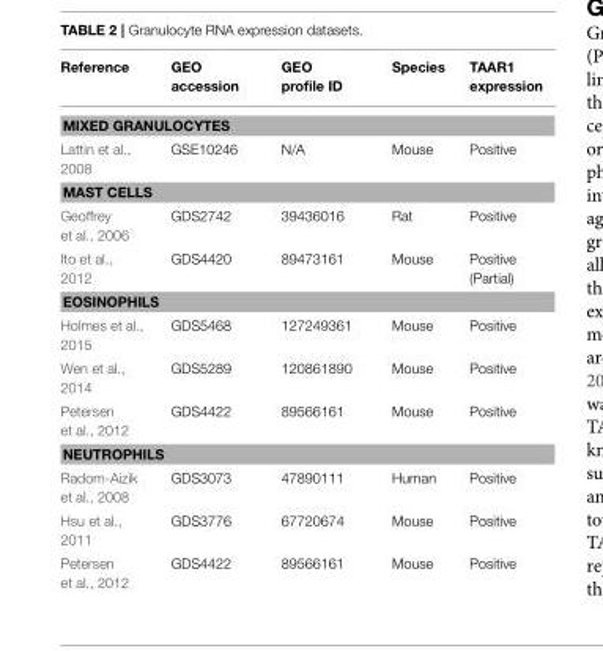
<table><thead><tr><td>Reference</td><td>GEO accession</td><td>GEO profile ID</td><td>Species</td><td>TAAR1 expression</td></tr></thead><tbody><tr><td colspan="5">MIXED GRANULOCYTES</td></tr><tr><td>Lattin et al., 2008</td><td>GSE10246</td><td>N/A</td><td>Mouse</td><td>Positive</td></tr><tr><td colspan="5">MAST CELLS</td></tr><tr><td>Geoffrey et al., 2006</td><td>GDS2742</td><td>39436016</td><td>Rat</td><td>Positive</td></tr><tr><td>Ito et al., 2012</td><td>GDS4420</td><td>89473161</td><td>Mouse</td><td>Positive (Partial)</td></tr><tr><td colspan="5">EOSINOPHILS</td></tr><tr><td>Holmes et al., 2015</td><td>GDS5468</td><td>127249361</td><td>Mouse</td><td>Positive</td></tr><tr><td>Wen et al., 2014</td><td>GDS5289</td><td>120861890</td><td>Mouse</td><td>Positive</td></tr><tr><td>Petersen et al., 2012</td><td>GDS4422</td><td>89566161</td><td>Mouse</td><td>Positive</td></tr><tr><td colspan="5">NEUTROPHILS</td></tr><tr><td>Radom-Aizik et al., 2008</td><td>GDS3073</td><td>47890111</td><td>Human</td><td>Positive</td></tr><tr><td>Hsu et al., 2011</td><td>GDS3776</td><td>67720674</td><td>Mouse</td><td>Positive</td></tr><tr><td>Petersen et al., 2012</td><td>GDS4422</td><td>89566161</td><td>Mouse</td><td>Positive</td></tr></tbody></table>